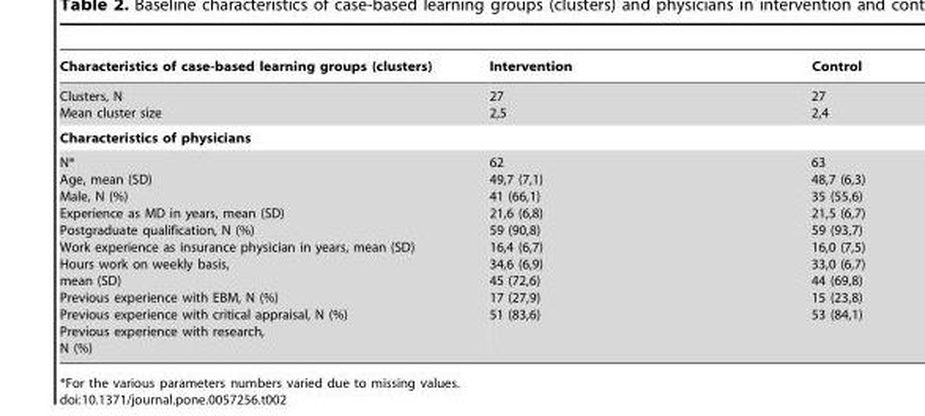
<table><thead><tr><td>Characteristics of case-based learning groups (clusters)</td><td>Intervention</td><td>Control</td></tr></thead><tbody><tr><td>Clusters, N Mean cluster size</td><td>27 2,5</td><td>27 2,4</td></tr><tr><td colspan="3">Characteristics of physicians</td></tr><tr><td>N* Age, mean (SD) Male, N (%) Experience as MD in years, mean (SD) Postgraduate qualification, N (%) Work experience as insurance physician in years, mean (SD) Hours work on weekly basis, mean (SD) Previous experience with EBM, N (%) Previous experience with critical appraisal, N (%) Previous experience with research, N (%)</td><td>62 49,7 (7,1) 41 (66,1) 21,6 (6,8) 59 (90,8) 16,4 (6,7) 34,6 (6,9) 45 (72,6) 17 (27,9) 51 (83,6)</td><td>63 48,7 (6,3) 35 (55,6) 21,5 (6,7) 59 (93,7) 16,0 (7,5) 33,0 (6,7) 44 (69,8) 15 (23,8) 53 (84,1)</td></tr></tbody></table>